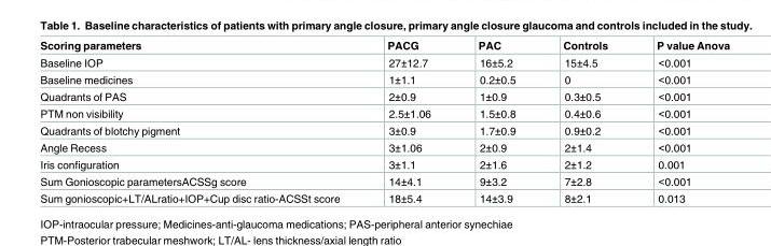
<table><thead><tr><td>Scoring parameters</td><td>PACG</td><td>PAC</td><td>Controls</td><td>P value Anova</td></tr></thead><tbody><tr><td>Baseline IOP</td><td>27±12.7</td><td>16±5.2</td><td>15±4.5</td><td>&lt;0.001</td></tr><tr><td>Baseline medicines</td><td>1±1.1</td><td>0.2±0.5</td><td>0</td><td>&lt;0.001</td></tr><tr><td>Quadrants of PAS</td><td>2±0.9</td><td>1±0.9</td><td>0.3±0.5</td><td>&lt;0.001</td></tr><tr><td>PTM non visibility</td><td>2.5±1.06</td><td>1.5±0.8</td><td>0.4±0.6</td><td>&lt;0.001</td></tr><tr><td>Quadrants of blotchy pigment</td><td>3±0.9</td><td>1.7±0.9</td><td>0.9±0.2</td><td>&lt;0.001</td></tr><tr><td>Angle Recess</td><td>3±1.06</td><td>2±0.9</td><td>2±1.4</td><td>&lt;0.001</td></tr><tr><td>Iris configuration</td><td>3±1.1</td><td>2±1.6</td><td>2±1.2</td><td>0.001</td></tr><tr><td>Sum Gonioscopic parametersACSSg score</td><td>14±4.1</td><td>9±3.2</td><td>7±2.8</td><td>&lt;0.001</td></tr><tr><td>Sum gonioscopic+LT/ALratio+IOP+Cup disc ratio-ACSSt score</td><td>18±5.4</td><td>14±3.9</td><td>8±2.1</td><td>0.013</td></tr></tbody></table>